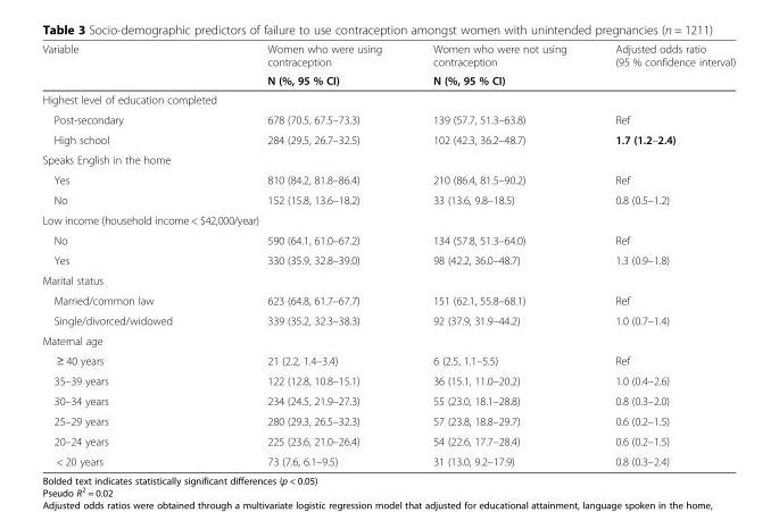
<table><thead><tr><td rowspan="2">Variable</td><td rowspan="2">Women who were using contraception N (%, 95 % CI)</td><td rowspan="2">Women who were not using contraception N (%, 95 % CI)</td><td rowspan="2">Adjusted odds ratio (95 % confidence interval)</td></tr><tr></tr></thead><tbody><tr><td colspan="4">Highest level of education completed</td></tr><tr><td>Post-secondary</td><td>678 (70.5, 67.5–73.3)</td><td>139 (57.7, 51.3–63.8)</td><td>Ref</td></tr><tr><td>High school</td><td>284 (29.5, 26.7–32.5)</td><td>102 (42.3, 36.2–48.7)</td><td>1.7 (1.2–2.4)</td></tr><tr><td colspan="4">Speaks English in the home</td></tr><tr><td>Yes</td><td>810 (84.2, 81.8–86.4)</td><td>210 (86.4, 81.5–90.2)</td><td>Ref</td></tr><tr><td>No</td><td>152 (15.8, 13.6–18.2)</td><td>33 (13.6, 9.8–18.5)</td><td>0.8 (0.5–1.2)</td></tr><tr><td colspan="4">Low income (household income &lt; $42,000/year)</td></tr><tr><td>No</td><td>590 (64.1, 61.0–67.2)</td><td>134 (57.8, 51.3–64.0)</td><td>Ref</td></tr><tr><td>Yes</td><td>330 (35.9, 32.8–39.0)</td><td>98 (42.2, 36.0–48.7)</td><td>1.3 (0.9–1.8)</td></tr><tr><td colspan="4">Marital status</td></tr><tr><td>Married/common law</td><td>623 (64.8, 61.7–67.7)</td><td>151 (62.1, 55.8–68.1)</td><td>Ref</td></tr><tr><td>Single/divorced/widowed</td><td>339 (35.2, 32.3–38.3)</td><td>92 (37.9, 31.9–44.2)</td><td>1.0 (0.7–1.4)</td></tr><tr><td colspan="4">Maternal age</td></tr><tr><td>≥ 40 years</td><td>21 (2.2, 1.4–3.4)</td><td>6 (2.5, 1.1–5.5)</td><td>Ref</td></tr><tr><td>35–39 years</td><td>122 (12.8, 10.8–15.1)</td><td>36 (15.1, 11.0–20.2)</td><td>1.0 (0.4–2.6)</td></tr><tr><td>30–34 years</td><td>234 (24.5, 21.9–27.3)</td><td>55 (23.0, 18.1–28.8)</td><td>0.8 (0.3–2.0)</td></tr><tr><td>25–29 years</td><td>280 (29.3, 26.5–32.3)</td><td>57 (23.8, 18.8–29.7)</td><td>0.6 (0.2–1.5)</td></tr><tr><td>20–24 years</td><td>225 (23.6, 21.0–26.4)</td><td>54 (22.6, 17.7–28.4)</td><td>0.6 (0.2–1.5)</td></tr><tr><td>&lt; 20 years</td><td>73 (7.6, 6.1–9.5)</td><td>31 (13.0, 9.2–17.9)</td><td>0.8 (0.3–2.4)</td></tr></tbody></table>